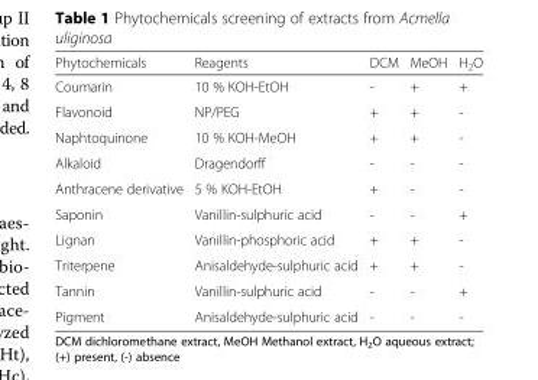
<table><thead><tr><td>Phytochemicals</td><td>Reagents</td><td>DCM</td><td>MeOH</td><td>H<sub>2</sub>O</td></tr></thead><tbody><tr><td>Coumarin</td><td>10 % KOH-EtOH</td><td>-</td><td>+</td><td>+</td></tr><tr><td>Flavonoid</td><td>NP/PEG</td><td>+</td><td>+</td><td>-</td></tr><tr><td>Naphtoquinone</td><td>10 % KOH-MeOH</td><td>+</td><td>+</td><td>-</td></tr><tr><td>Alkaloid</td><td>Dragendorff</td><td>-</td><td>-</td><td>-</td></tr><tr><td>Anthracene derivative</td><td>5 % KOH-EtOH</td><td>+</td><td>-</td><td>-</td></tr><tr><td>Saponin</td><td>Vanillin-sulphuric acid</td><td>-</td><td>-</td><td>+</td></tr><tr><td>Lignan</td><td>Vanillin-phosphoric acid</td><td>+</td><td>+</td><td>-</td></tr><tr><td>Triterpene</td><td>Anisaldehyde-sulphuric acid</td><td>+</td><td>+</td><td>-</td></tr><tr><td>Tannin</td><td>Vanillin-sulphuric acid</td><td>-</td><td>-</td><td>+</td></tr><tr><td>Pigment</td><td>Anisaldehyde-sulphuric acid</td><td>-</td><td>-</td><td>-</td></tr></tbody></table>